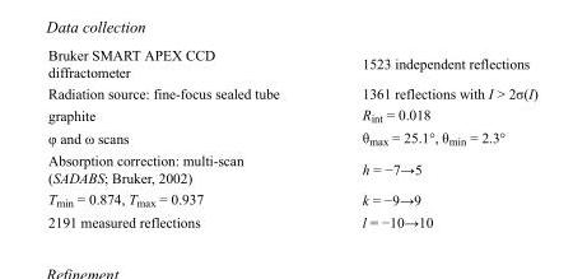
<table><tbody><tr><td>Bruker SMART APEX CCD diffractometer</td><td>1523 independent reflections</td></tr><tr><td>Radiation source: fine-focus sealed tube</td><td>1361 reflections with I &gt; 2σ(I)</td></tr><tr><td>graphite</td><td>R<sub>int</sub> = 0.018</td></tr><tr><td>φ and ω scans</td><td>θ<sub>max</sub> = 25.1°, θ<sub>min</sub> = 2.3°</td></tr><tr><td>Absorption correction: multi-scan (SADABS; Bruker, 2002)</td><td>h = −7→5</td></tr><tr><td>T<sub>min</sub> = 0.874, T<sub>max</sub> = 0.937</td><td>k = −9→9</td></tr><tr><td>2191 measured reflections</td><td>l = −10→10</td></tr></tbody></table>